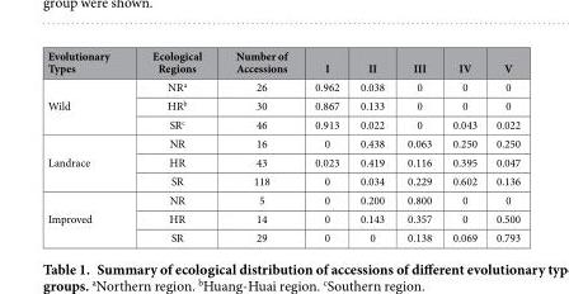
<table><thead><tr><td>Evolutionary Types</td><td>Ecological Regions</td><td>Number of Accessions</td><td>I</td><td>II</td><td>III</td><td>IV</td><td>V</td></tr></thead><tbody><tr><td rowspan="3">Wild</td><td>NR<sup>a</sup></td><td>26</td><td>0.962</td><td>0.038</td><td>0</td><td>0</td><td>0</td></tr><tr><td>HR<sup>b</sup></td><td>30</td><td>0.867</td><td>0.133</td><td>0</td><td>0</td><td>0</td></tr><tr><td>SR<sup>c</sup></td><td>46</td><td>0.913</td><td>0.022</td><td>0</td><td>0.043</td><td>0.022</td></tr><tr><td rowspan="3">Landrace</td><td>NR</td><td>16</td><td>0</td><td>0.438</td><td>0.063</td><td>0.250</td><td>0.250</td></tr><tr><td>HR</td><td>43</td><td>0.023</td><td>0.419</td><td>0.116</td><td>0.395</td><td>0.047</td></tr><tr><td>SR</td><td>118</td><td>0</td><td>0.034</td><td>0.229</td><td>0.602</td><td>0.136</td></tr><tr><td rowspan="3">Improved</td><td>NR</td><td>5</td><td>0</td><td>0.200</td><td>0.800</td><td>0</td><td>0</td></tr><tr><td>HR</td><td>14</td><td>0</td><td>0.143</td><td>0.357</td><td>0</td><td>0.500</td></tr><tr><td>SR</td><td>29</td><td>0</td><td>0</td><td>0.138</td><td>0.069</td><td>0.793</td></tr></tbody></table>